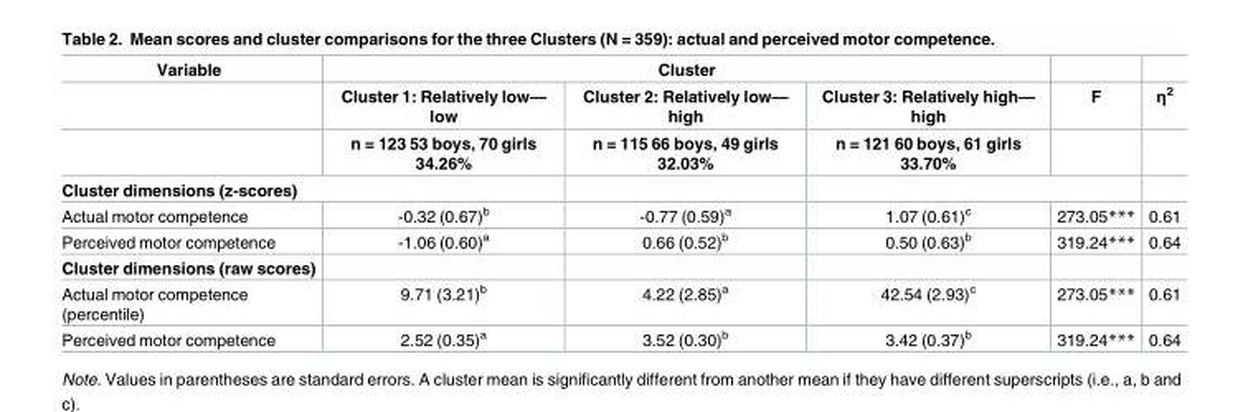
<table><thead><tr><td rowspan="3">Variable</td><td colspan="3">Cluster</td><td rowspan="3">F</td><td rowspan="3">η<sup>2</sup></td></tr><tr><td rowspan="2">Cluster 1: Relatively low— low n = 123 53 boys, 70 girls 34.26%</td><td rowspan="2">Cluster 2: Relatively low— high n = 115 66 boys, 49 girls 32.03%</td><td rowspan="2">Cluster 3: Relatively high— high n = 121 60 boys, 61 girls 33.70%</td></tr><tr></tr></thead><tbody><tr><td colspan="6">Cluster dimensions (z-scores)</td></tr><tr><td>Actual motor competence</td><td>-0.32 (0.67)<sup>b</sup></td><td>-0.77 (0.59)<sup>a</sup></td><td>1.07 (0.61)<sup>c</sup></td><td>273.05***</td><td>0.61</td></tr><tr><td>Perceived motor competence</td><td>-1.06 (0.60)<sup>a</sup></td><td>0.66 (0.52)<sup>b</sup></td><td>0.50 (0.63)<sup>b</sup></td><td>319.24***</td><td>0.64</td></tr><tr><td colspan="6">Cluster dimensions (raw scores)</td></tr><tr><td>Actual motor competence (percentile)</td><td>9.71 (3.21)<sup>b</sup></td><td>4.22 (2.85)<sup>a</sup></td><td>42.54 (2.93)<sup>c</sup></td><td>273.05***</td><td>0.61</td></tr><tr><td>Perceived motor competence</td><td>2.52 (0.35)<sup>a</sup></td><td>3.52 (0.30)<sup>b</sup></td><td>3.42 (0.37)<sup>b</sup></td><td>319.24***</td><td>0.64</td></tr></tbody></table>